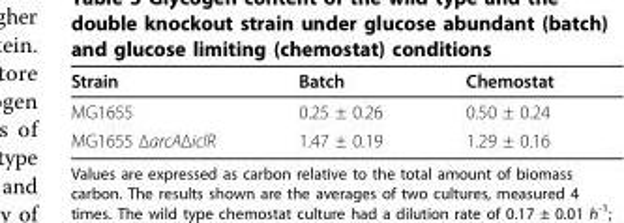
<table><thead><tr><td>Strain</td><td>Batch</td><td>Chemostat</td></tr></thead><tbody><tr><td>MG1655</td><td>0.25 ± 0.26</td><td>0.50 ± 0.24</td></tr><tr><td>MG1655 ΔarcAΔiclR</td><td>1.47 ± 0.19</td><td>1.29 ± 0.16</td></tr></tbody></table>